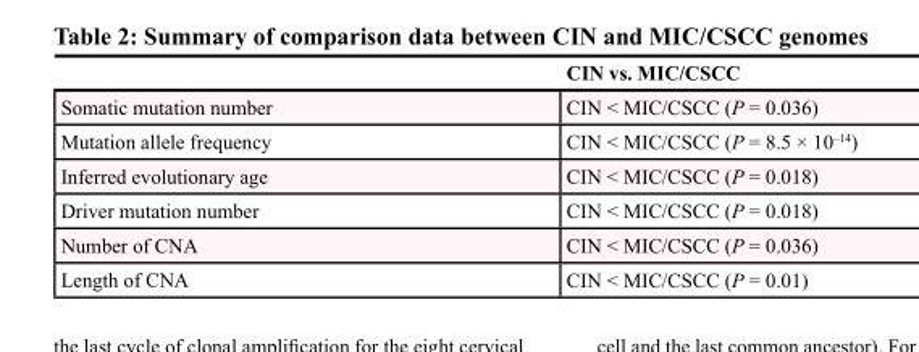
<table><thead><tr><td></td><td>CIN vs. MIC/CSCC</td></tr></thead><tbody><tr><td>Somatic mutation number</td><td>CIN &lt; MIC/CSCC (P = 0.036)</td></tr><tr><td>Mutation allele frequency</td><td>CIN &lt; MIC/CSCC (P = 8.5 × 10<sup>–14</sup>)</td></tr><tr><td>Inferred evolutionary age</td><td>CIN &lt; MIC/CSCC (P = 0.018)</td></tr><tr><td>Driver mutation number</td><td>CIN &lt; MIC/CSCC (P = 0.018)</td></tr><tr><td>Number of CNA</td><td>CIN &lt; MIC/CSCC (P = 0.036)</td></tr><tr><td>Length of CNA</td><td>CIN &lt; MIC/CSCC (P = 0.01)</td></tr></tbody></table>